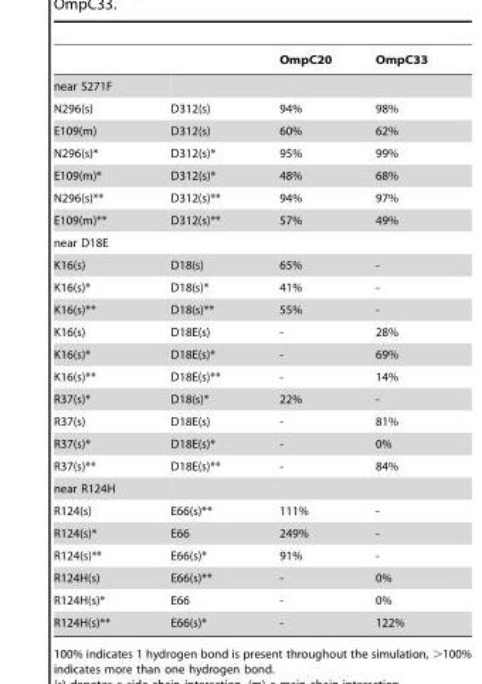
<table><thead><tr><td></td><td></td><td>OmpC20</td><td>OmpC33</td></tr></thead><tbody><tr><td colspan="4">near S271F</td></tr><tr><td>N296(s)</td><td>D312(s)</td><td>94%</td><td>98%</td></tr><tr><td>E109(m)</td><td>D312(s)</td><td>60%</td><td>62%</td></tr><tr><td>N296(s)*</td><td>D312(s)*</td><td>95%</td><td>99%</td></tr><tr><td>E109(m)*</td><td>D312(s)*</td><td>48%</td><td>68%</td></tr><tr><td>N296(s)**</td><td>D312(s)**</td><td>94%</td><td>97%</td></tr><tr><td>E109(m)**</td><td>D312(s)**</td><td>57%</td><td>49%</td></tr><tr><td colspan="4">near D18E</td></tr><tr><td>K16(s)</td><td>D18(s)</td><td>65%</td><td>-</td></tr><tr><td>K16(s)*</td><td>D18(s)*</td><td>41%</td><td>-</td></tr><tr><td>K16(s)**</td><td>D18(s)**</td><td>55%</td><td>-</td></tr><tr><td>K16(s)</td><td>D18E(s)</td><td>-</td><td>28%</td></tr><tr><td>K16(s)*</td><td>D18E(s)*</td><td>-</td><td>69%</td></tr><tr><td>K16(s)**</td><td>D18E(s)**</td><td>-</td><td>14%</td></tr><tr><td>R37(s)*</td><td>D18(s)*</td><td>22%</td><td>-</td></tr><tr><td>R37(s)</td><td>D18E(s)</td><td>-</td><td>81%</td></tr><tr><td>R37(s)*</td><td>D18E(s)*</td><td>-</td><td>0%</td></tr><tr><td>R37(s)**</td><td>D18E(s)**</td><td>-</td><td>84%</td></tr><tr><td colspan="4">near R124H</td></tr><tr><td>R124(s)</td><td>E66(s)**</td><td>111%</td><td>-</td></tr><tr><td>R124(s)*</td><td>E66</td><td>249%</td><td>-</td></tr><tr><td>R124(s)**</td><td>E66(s)*</td><td>91%</td><td>-</td></tr><tr><td>R124H(s)</td><td>E66(s)**</td><td>-</td><td>0%</td></tr><tr><td>R124H(s)*</td><td>E66</td><td>-</td><td>0%</td></tr><tr><td>R124H(s)**</td><td>E66(s)*</td><td>-</td><td>122%</td></tr></tbody></table>